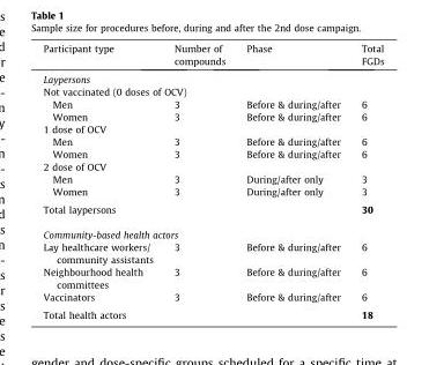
<table><thead><tr><td>Participant type</td><td>Number of compounds</td><td>Phase</td><td>Total FGDs</td></tr></thead><tbody><tr><td colspan="4">Laypersons</td></tr><tr><td colspan="4">Not vaccinated (0 doses of OCV)</td></tr><tr><td>Men</td><td>3</td><td>Before &amp; during/after</td><td>6</td></tr><tr><td>Women</td><td>3</td><td>Before &amp; during/after</td><td>6</td></tr><tr><td colspan="4">1 dose of OCV</td></tr><tr><td>Men</td><td>3</td><td>Before &amp; during/after</td><td>6</td></tr><tr><td>Women</td><td>3</td><td>Before &amp; during/after</td><td>6</td></tr><tr><td colspan="4">2 dose of OCV</td></tr><tr><td>Men</td><td>3</td><td>During/after only</td><td>3</td></tr><tr><td>Women</td><td>3</td><td>During/after only</td><td>3</td></tr><tr><td colspan="3">Total laypersons</td><td>30</td></tr><tr><td colspan="4">Community-based health actors</td></tr><tr><td>Lay healthcare workers/ community assistants</td><td>3</td><td>Before &amp; during/after</td><td>6</td></tr><tr><td>Neighbourhood health committees</td><td>3</td><td>Before &amp; during/after</td><td>6</td></tr><tr><td>Vaccinators</td><td>3</td><td>Before &amp; during/after</td><td>6</td></tr><tr><td colspan="3">Total health actors</td><td>18</td></tr></tbody></table>